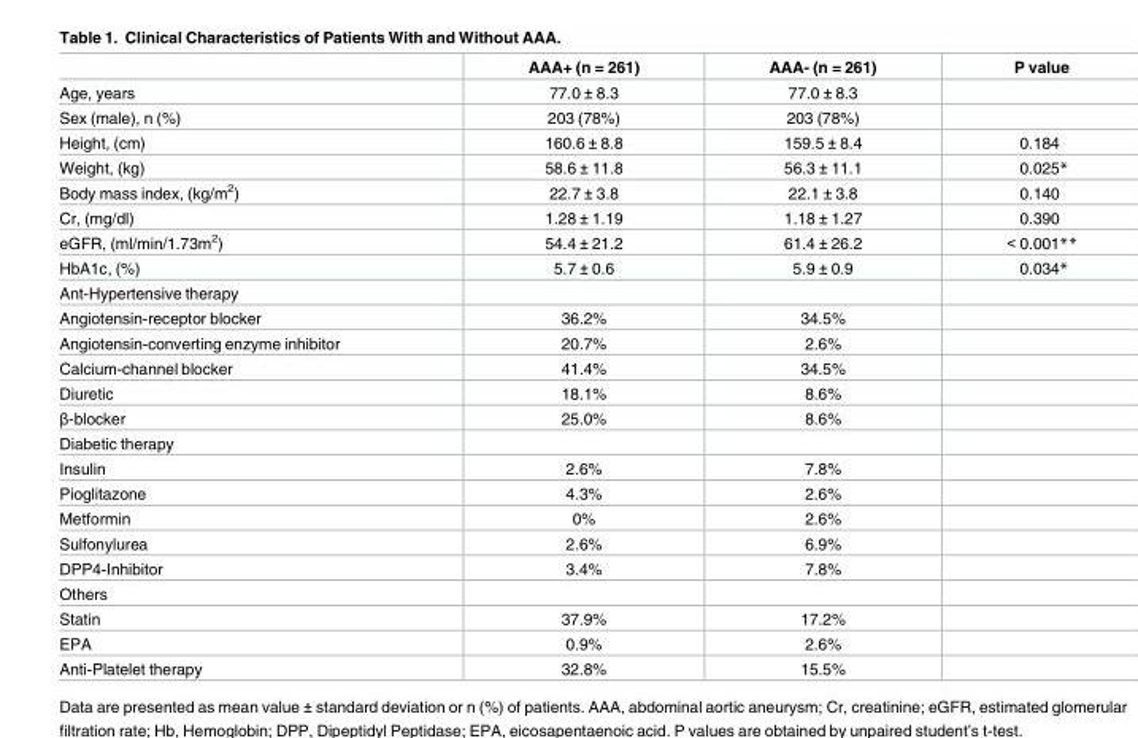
<table><thead><tr><td></td><td>AAA+ (n = 261)</td><td>AAA- (n = 261)</td><td>P value</td></tr></thead><tbody><tr><td>Age, years</td><td>77.0 ± 8.3</td><td>77.0 ± 8.3</td><td></td></tr><tr><td>Sex (male), n (%)</td><td>203 (78%)</td><td>203 (78%)</td><td></td></tr><tr><td>Height, (cm)</td><td>160.6 ± 8.8</td><td>159.5 ± 8.4</td><td>0.184</td></tr><tr><td>Weight, (kg)</td><td>58.6 ± 11.8</td><td>56.3 ± 11.1</td><td>0.025*</td></tr><tr><td>Body mass index, (kg/m<sup>2</sup>)</td><td>22.7 ± 3.8</td><td>22.1 ± 3.8</td><td>0.140</td></tr><tr><td>Cr, (mg/dl)</td><td>1.28 ± 1.19</td><td>1.18 ± 1.27</td><td>0.390</td></tr><tr><td>eGFR, (ml/min/1.73m<sup>2</sup>)</td><td>54.4 ± 21.2</td><td>61.4 ± 26.2</td><td>&lt; 0.001**</td></tr><tr><td>HbA1c, (%)</td><td>5.7 ± 0.6</td><td>5.9 ± 0.9</td><td>0.034*</td></tr><tr><td colspan="4">Ant-Hypertensive therapy</td></tr><tr><td>Angiotensin-receptor blocker</td><td>36.2%</td><td>34.5%</td><td></td></tr><tr><td>Angiotensin-converting enzyme inhibitor</td><td>20.7%</td><td>2.6%</td><td></td></tr><tr><td>Calcium-channel blocker</td><td>41.4%</td><td>34.5%</td><td></td></tr><tr><td>Diuretic</td><td>18.1%</td><td>8.6%</td><td></td></tr><tr><td>β-blocker</td><td>25.0%</td><td>8.6%</td><td></td></tr><tr><td colspan="4">Diabetic therapy</td></tr><tr><td>Insulin</td><td>2.6%</td><td>7.8%</td><td></td></tr><tr><td>Pioglitazone</td><td>4.3%</td><td>2.6%</td><td></td></tr><tr><td>Metformin</td><td>0%</td><td>2.6%</td><td></td></tr><tr><td>Sulfonylurea</td><td>2.6%</td><td>6.9%</td><td></td></tr><tr><td>DPP4-Inhibitor</td><td>3.4%</td><td>7.8%</td><td></td></tr><tr><td colspan="4">Others</td></tr><tr><td>Statin</td><td>37.9%</td><td>17.2%</td><td></td></tr><tr><td>EPA</td><td>0.9%</td><td>2.6%</td><td></td></tr><tr><td>Anti-Platelet therapy</td><td>32.8%</td><td>15.5%</td><td></td></tr></tbody></table>